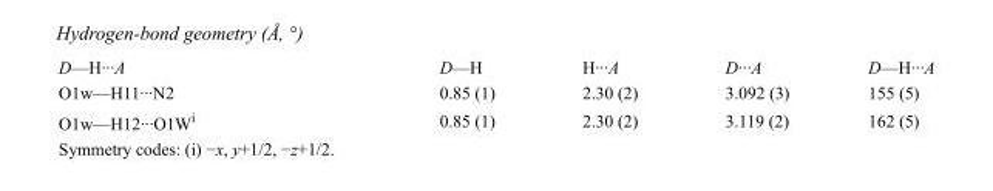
<table><tbody><tr><td>D—H···A</td><td>D—H</td><td>H···A</td><td>D···A</td><td>D—H···A</td></tr><tr><td>O1w—H11···N2</td><td>0.85 (1)</td><td>2.30 (2)</td><td>3.092 (3)</td><td>155 (5)</td></tr><tr><td>O1w—H12···O1W<sup>i</sup></td><td>0.85 (1)</td><td>2.30 (2)</td><td>3.119 (2)</td><td>162 (5)</td></tr></tbody></table>